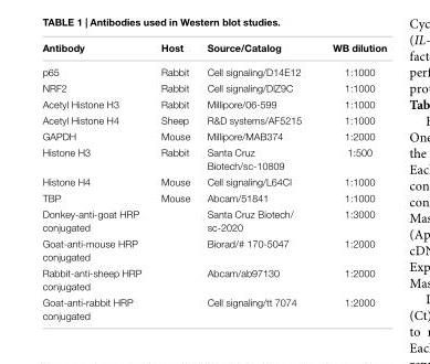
<table><thead><tr><td>Antibody</td><td>Host</td><td>Source/Catalog</td><td>WB dilution</td></tr></thead><tbody><tr><td>p65</td><td>Rabbit</td><td>Cell signaling/D14E12</td><td>1:1000</td></tr><tr><td>NRF2</td><td>Rabbit</td><td>Cell signaling/DlZ9C</td><td>1:1000</td></tr><tr><td>Acetyl Histone H3</td><td>Rabbit</td><td>Millipore/06-599</td><td>1:1000</td></tr><tr><td>Acetyl Histone H4</td><td>Sheep</td><td>R&amp;D systems/AF5215</td><td>1:1000</td></tr><tr><td>GAPDH</td><td>Mouse</td><td>Millipore/MAB374</td><td>1:2000</td></tr><tr><td>Histone H3</td><td>Rabbit</td><td>Santa Cruz Biotech/sc-10809</td><td>1:500</td></tr><tr><td>Histone H4</td><td>Mouse</td><td>Cell signaling/L64Cl</td><td>1:1000</td></tr><tr><td>TBP</td><td>Mouse</td><td>Abcam/51841</td><td>1:1000</td></tr><tr><td>Donkey-anti-goat HRP conjugated</td><td></td><td>Santa Cruz Biotech/ sc-2020</td><td>1:3000</td></tr><tr><td>Goat-anti-mouse HRP conjugated</td><td></td><td>Biorad/# 170-5047</td><td>1:2000</td></tr><tr><td>Rabbit-anti-sheep HRP conjugated</td><td></td><td>Abcam/ab97130</td><td>1:2000</td></tr><tr><td>Goat-anti-rabbit HRP conjugated</td><td></td><td>Cell signaling/tt 7074</td><td>1:2000</td></tr></tbody></table>